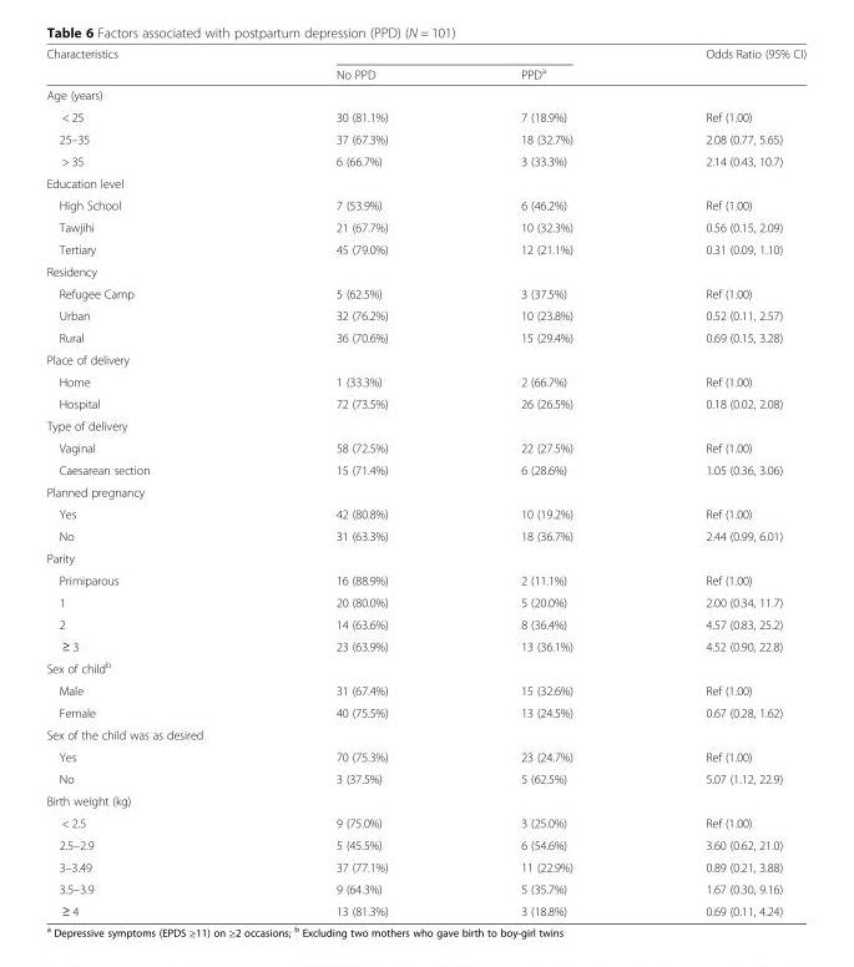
<table><thead><tr><td rowspan="2">Characteristics</td><td rowspan="2">No PPD</td><td rowspan="2">PPD<sup>a</sup></td><td rowspan="2">Odds Ratio (95% CI)</td></tr><tr></tr></thead><tbody><tr><td colspan="4">Age (years)</td></tr><tr><td>&lt; 25</td><td>30 (81.1%)</td><td>7 (18.9%)</td><td>Ref (1.00)</td></tr><tr><td>25–35</td><td>37 (67.3%)</td><td>18 (32.7%)</td><td>2.08 (0.77, 5.65)</td></tr><tr><td>&gt; 35</td><td>6 (66.7%)</td><td>3 (33.3%)</td><td>2.14 (0.43, 10.7)</td></tr><tr><td colspan="4">Education level</td></tr><tr><td>High School</td><td>7 (53.9%)</td><td>6 (46.2%)</td><td>Ref (1.00)</td></tr><tr><td>Tawjihi</td><td>21 (67.7%)</td><td>10 (32.3%)</td><td>0.56 (0.15, 2.09)</td></tr><tr><td>Tertiary</td><td>45 (79.0%)</td><td>12 (21.1%)</td><td>0.31 (0.09, 1.10)</td></tr><tr><td colspan="4">Residency</td></tr><tr><td>Refugee Camp</td><td>5 (62.5%)</td><td>3 (37.5%)</td><td>Ref (1.00)</td></tr><tr><td>Urban</td><td>32 (76.2%)</td><td>10 (23.8%)</td><td>0.52 (0.11, 2.57)</td></tr><tr><td>Rural</td><td>36 (70.6%)</td><td>15 (29.4%)</td><td>0.69 (0.15, 3.28)</td></tr><tr><td colspan="4">Place of delivery</td></tr><tr><td>Home</td><td>1 (33.3%)</td><td>2 (66.7%)</td><td>Ref (1.00)</td></tr><tr><td>Hospital</td><td>72 (73.5%)</td><td>26 (26.5%)</td><td>0.18 (0.02, 2.08)</td></tr><tr><td colspan="4">Type of delivery</td></tr><tr><td>Vaginal</td><td>58 (72.5%)</td><td>22 (27.5%)</td><td>Ref (1.00)</td></tr><tr><td>Caesarean section</td><td>15 (71.4%)</td><td>6 (28.6%)</td><td>1.05 (0.36, 3.06)</td></tr><tr><td colspan="4">Planned pregnancy</td></tr><tr><td>Yes</td><td>42 (80.8%)</td><td>10 (19.2%)</td><td>Ref (1.00)</td></tr><tr><td>No</td><td>31 (63.3%)</td><td>18 (36.7%)</td><td>2.44 (0.99, 6.01)</td></tr><tr><td colspan="4">Parity</td></tr><tr><td>Primiparous</td><td>16 (88.9%)</td><td>2 (11.1%)</td><td>Ref (1.00)</td></tr><tr><td>1</td><td>20 (80.0%)</td><td>5 (20.0%)</td><td>2.00 (0.34, 11.7)</td></tr><tr><td>2</td><td>14 (63.6%)</td><td>8 (36.4%)</td><td>4.57 (0.83, 25.2)</td></tr><tr><td>≥ 3</td><td>23 (63.9%)</td><td>13 (36.1%)</td><td>4.52 (0.90, 22.8)</td></tr><tr><td colspan="4">Sex of child<sup>b</sup></td></tr><tr><td>Male</td><td>31 (67.4%)</td><td>15 (32.6%)</td><td>Ref (1.00)</td></tr><tr><td>Female</td><td>40 (75.5%)</td><td>13 (24.5%)</td><td>0.67 (0.28, 1.62)</td></tr><tr><td colspan="4">Sex of the child was as desired</td></tr><tr><td>Yes</td><td>70 (75.3%)</td><td>23 (24.7%)</td><td>Ref (1.00)</td></tr><tr><td>No</td><td>3 (37.5%)</td><td>5 (62.5%)</td><td>5.07 (1.12, 22.9)</td></tr><tr><td colspan="4">Birth weight (kg)</td></tr><tr><td>&lt; 2.5</td><td>9 (75.0%)</td><td>3 (25.0%)</td><td>Ref (1.00)</td></tr><tr><td>2.5–2.9</td><td>5 (45.5%)</td><td>6 (54.6%)</td><td>3.60 (0.62, 21.0)</td></tr><tr><td>3–3.49</td><td>37 (77.1%)</td><td>11 (22.9%)</td><td>0.89 (0.21, 3.88)</td></tr><tr><td>3.5–3.9</td><td>9 (64.3%)</td><td>5 (35.7%)</td><td>1.67 (0.30, 9.16)</td></tr><tr><td>≥ 4</td><td>13 (81.3%)</td><td>3 (18.8%)</td><td>0.69 (0.11, 4.24)</td></tr></tbody></table>